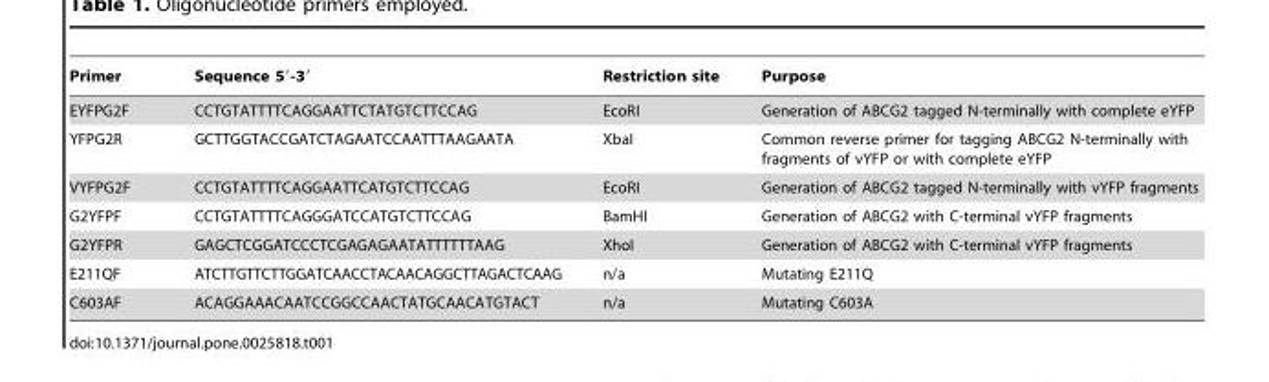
<table><thead><tr><td>Primer</td><td>Sequence 5′-3′</td><td>Restriction site</td><td>Purpose</td></tr></thead><tbody><tr><td>EYFPG2F</td><td>CCTGTATTTTCAGGAATTCTATGTCTTCCAG</td><td>EcoRI</td><td>Generation of ABCG2 tagged N-terminally with complete eYFP</td></tr><tr><td>YFPG2R</td><td>GCTTGGTACCGATCTAGAATCCAATTTAAGAATA</td><td>XbaI</td><td>Common reverse primer for tagging ABCG2 N-terminally with fragments of vYFP or with complete eYFP</td></tr><tr><td>VYFPG2F</td><td>CCTGTATTTTCAGGAATTCATGTCTTCCAG</td><td>EcoRI</td><td>Generation of ABCG2 tagged N-terminally with vYFP fragments</td></tr><tr><td>G2YFPF</td><td>CCTGTATTTTCAGGGATCCATGTCTTCCAG</td><td>BamHI</td><td>Generation of ABCG2 with C-terminal vYFP fragments</td></tr><tr><td>G2YFPR</td><td>GAGCTCGGATCCCTCGAGAGAATATTTTTTAAG</td><td>XhoI</td><td>Generation of ABCG2 with C-terminal vYFP fragments</td></tr><tr><td>E211QF</td><td>ATCTTGTTCTTGGATCAACCTACAACAGGCTTAGACTCAAG</td><td>n/a</td><td>Mutating E211Q</td></tr><tr><td>C603AF</td><td>ACAGGAAACAATCCGGCCAACTATGCAACATGTACT</td><td>n/a</td><td>Mutating C603A</td></tr></tbody></table>